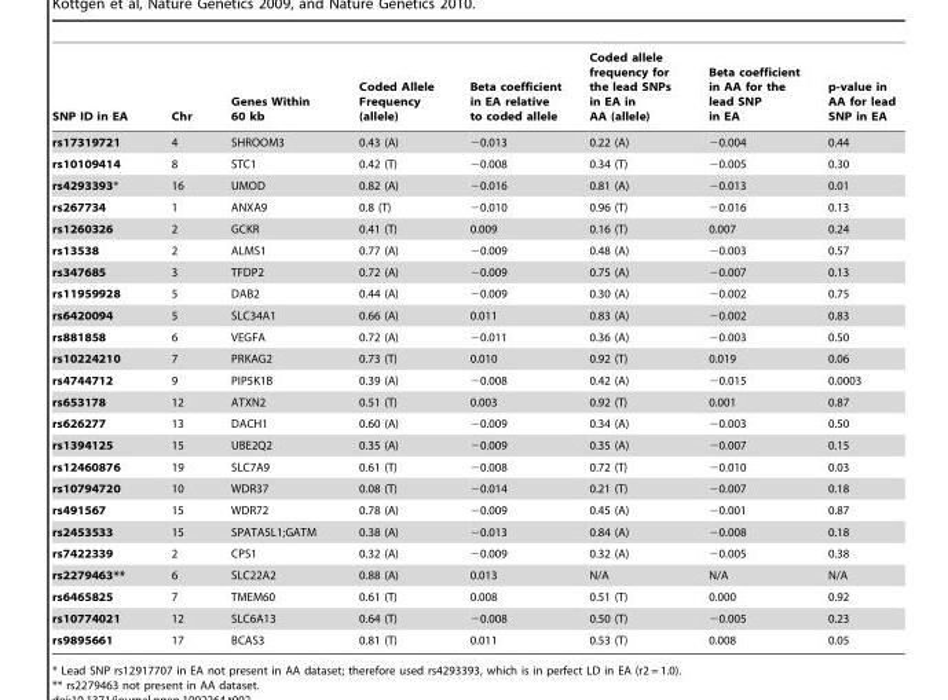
<table><thead><tr><td>SNP ID in EA</td><td>Chr</td><td>Genes Within 60 kb</td><td>Coded Allele Frequency (allele)</td><td>Beta coefficient in EA relative to coded allele</td><td>Coded allele frequency for the lead SNPs in EA in AA (allele)</td><td>Beta coefficient in AA for the lead SNP in EA</td><td>p-value in AA for lead SNP in EA</td></tr></thead><tbody><tr><td>rs17319721</td><td>4</td><td>SHROOM3</td><td>0.43 (A)</td><td>−0.013</td><td>0.22 (A)</td><td>−0.004</td><td>0.44</td></tr><tr><td>rs10109414</td><td>8</td><td>STC1</td><td>0.42 (T)</td><td>−0.008</td><td>0.34 (T)</td><td>−0.005</td><td>0.30</td></tr><tr><td>rs4293393*</td><td>16</td><td>UMOD</td><td>0.82 (A)</td><td>−0.016</td><td>0.81 (A)</td><td>−0.013</td><td>0.01</td></tr><tr><td>rs267734</td><td>1</td><td>ANXA9</td><td>0.8 (T)</td><td>−0.010</td><td>0.96 (T)</td><td>−0.016</td><td>0.13</td></tr><tr><td>rs1260326</td><td>2</td><td>GCKR</td><td>0.41 (T)</td><td>0.009</td><td>0.16 (T)</td><td>0.007</td><td>0.24</td></tr><tr><td>rs13538</td><td>2</td><td>ALMS1</td><td>0.77 (A)</td><td>−0.009</td><td>0.48 (A)</td><td>−0.003</td><td>0.57</td></tr><tr><td>rs347685</td><td>3</td><td>TFDP2</td><td>0.72 (A)</td><td>−0.009</td><td>0.75 (A)</td><td>−0.007</td><td>0.13</td></tr><tr><td>rs11959928</td><td>5</td><td>DAB2</td><td>0.44 (A)</td><td>−0.009</td><td>0.30 (A)</td><td>−0.002</td><td>0.75</td></tr><tr><td>rs6420094</td><td>5</td><td>SLC34A1</td><td>0.66 (A)</td><td>0.011</td><td>0.83 (A)</td><td>−0.002</td><td>0.83</td></tr><tr><td>rs881858</td><td>6</td><td>VEGFA</td><td>0.72 (A)</td><td>−0.011</td><td>0.36 (A)</td><td>−0.003</td><td>0.50</td></tr><tr><td>rs10224210</td><td>7</td><td>PRKAG2</td><td>0.73 (T)</td><td>0.010</td><td>0.92 (T)</td><td>0.019</td><td>0.06</td></tr><tr><td>rs4744712</td><td>9</td><td>PIP5K1B</td><td>0.39 (A)</td><td>−0.008</td><td>0.42 (A)</td><td>−0.015</td><td>0.0003</td></tr><tr><td>rs653178</td><td>12</td><td>ATXN2</td><td>0.51 (T)</td><td>0.003</td><td>0.92 (T)</td><td>0.001</td><td>0.87</td></tr><tr><td>rs626277</td><td>13</td><td>DACH1</td><td>0.60 (A)</td><td>−0.009</td><td>0.34 (A)</td><td>−0.003</td><td>0.50</td></tr><tr><td>rs1394125</td><td>15</td><td>UBE2Q2</td><td>0.35 (A)</td><td>−0.009</td><td>0.35 (A)</td><td>−0.007</td><td>0.15</td></tr><tr><td>rs12460876</td><td>19</td><td>SLC7A9</td><td>0.61 (T)</td><td>−0.008</td><td>0.72 (T)</td><td>−0.010</td><td>0.03</td></tr><tr><td>rs10794720</td><td>10</td><td>WDR37</td><td>0.08 (T)</td><td>−0.014</td><td>0.21 (T)</td><td>−0.007</td><td>0.18</td></tr><tr><td>rs491567</td><td>15</td><td>WDR72</td><td>0.78 (A)</td><td>−0.009</td><td>0.45 (A)</td><td>−0.001</td><td>0.87</td></tr><tr><td>rs2453533</td><td>15</td><td>SPATA5L1;GATM</td><td>0.38 (A)</td><td>−0.013</td><td>0.84 (A)</td><td>−0.008</td><td>0.18</td></tr><tr><td>rs7422339</td><td>2</td><td>CPS1</td><td>0.32 (A)</td><td>−0.009</td><td>0.32 (A)</td><td>−0.005</td><td>0.38</td></tr><tr><td>rs2279463**</td><td>6</td><td>SLC22A2</td><td>0.88 (A)</td><td>0.013</td><td>N/A</td><td>N/A</td><td>N/A</td></tr><tr><td>rs6465825</td><td>7</td><td>TMEM60</td><td>0.61 (T)</td><td>0.008</td><td>0.51 (T)</td><td>0.000</td><td>0.92</td></tr><tr><td>rs10774021</td><td>12</td><td>SLC6A13</td><td>0.64 (T)</td><td>−0.008</td><td>0.50 (T)</td><td>−0.005</td><td>0.23</td></tr><tr><td>rs9895661</td><td>17</td><td>BCAS3</td><td>0.81 (T)</td><td>0.011</td><td>0.53 (T)</td><td>0.008</td><td>0.05</td></tr></tbody></table>